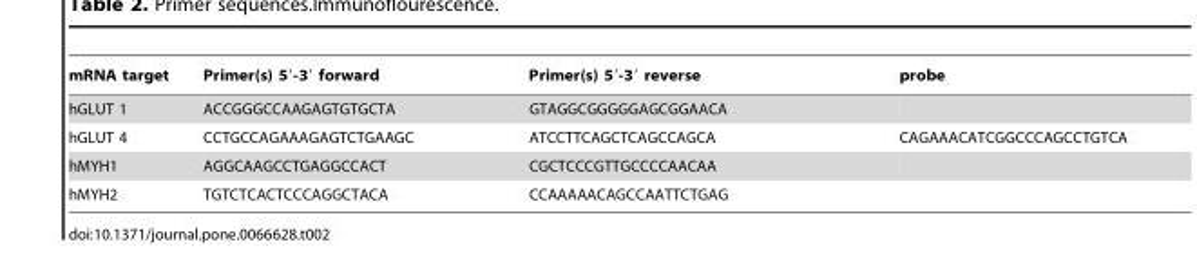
<table><thead><tr><td>mRNA target</td><td>Primer(s) 5′-3′ forward</td><td>Primer(s) 5′-3′ reverse</td><td>probe</td></tr></thead><tbody><tr><td>hGLUT 1</td><td>ACCGGGCCAAGAGTGTGCTA</td><td>GTAGGCGGGGGAGCGGAACA</td><td></td></tr><tr><td>hGLUT 4</td><td>CCTGCCAGAAAGAGTCTGAAGC</td><td>ATCCTTCAGCTCAGCCAGCA</td><td>CAGAAACATCGGCCCAGCCTGTCA</td></tr><tr><td>hMYH1</td><td>AGGCAAGCCTGAGGCCACT</td><td>CGCTCCCGTTGCCCCAACAA</td><td></td></tr><tr><td>hMYH2</td><td>TGTCTCACTCCCAGGCTACA</td><td>CCAAAAACAGCCAATTCTGAG</td><td></td></tr></tbody></table>